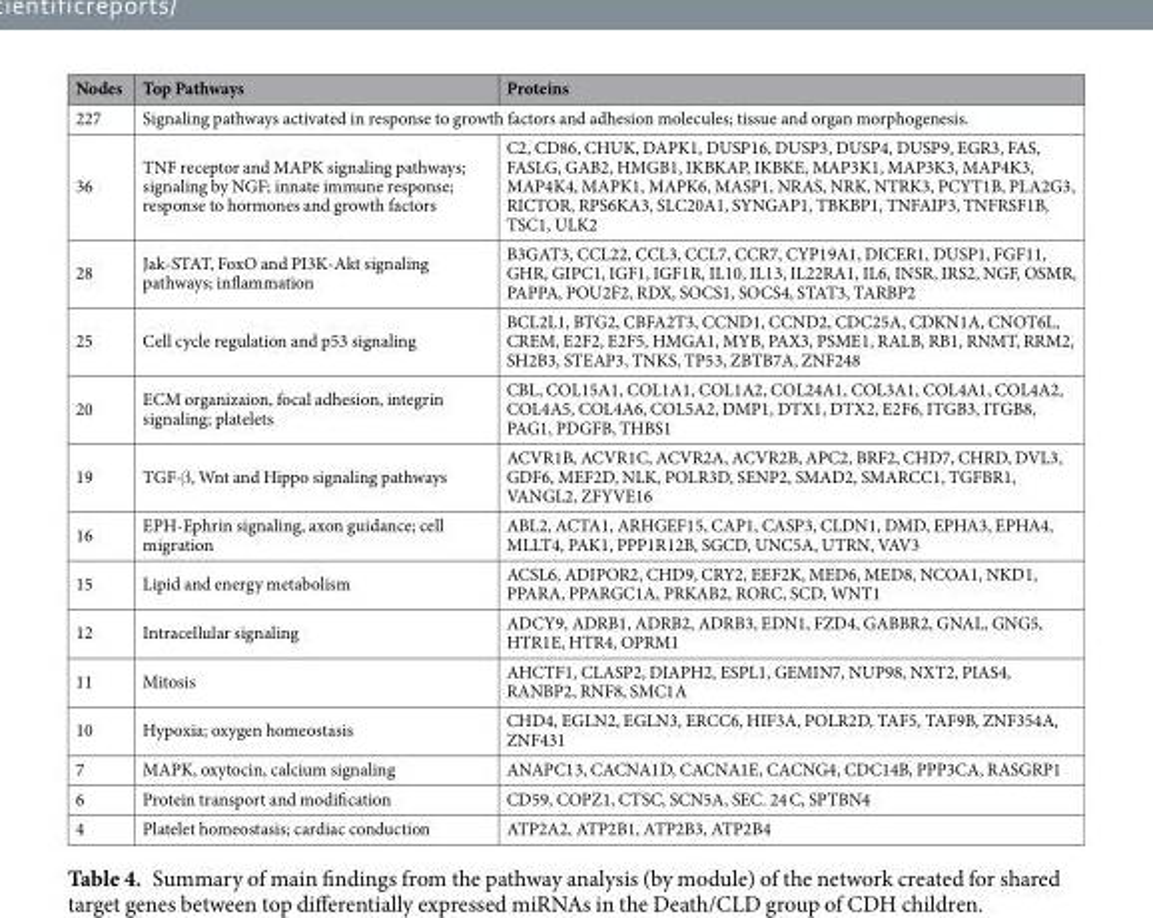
<table><thead><tr><td>Nodes</td><td>Top Pathways</td><td>Proteins</td></tr></thead><tbody><tr><td>227</td><td colspan="2">Signaling pathways activated in response to growth factors and adhesion molecules; tissue and organ morphogenesis.</td></tr><tr><td>36</td><td>TNF receptor and MAPK signaling pathways; signaling by NGF; innate immune response; response to hormones and growth factors</td><td>C2, CD86, CHUK, DAPK1, DUSP16, DUSP3, DUSP4, DUSP9, EGR3, FAS, FASLG, GAB2, HMGB1, IKBKAP, IKBKE, MAP3K1, MAP3K3, MAP4K3, MAP4K4, MAPK1, MAPK6, MASP1, NRAS, NRK, NTRK3, PCYT1B, PLA2G3, RICTOR, RPS6KA3, SLC20A1, SYNGAP1, TBKBP1, TNFAIP3, TNFRSF1B, TSC1, ULK2</td></tr><tr><td>28</td><td>Jak-STAT, FoxO and PI3K-Akt signaling pathways; inflammation</td><td>B3GAT3, CCL22, CCL3, CCL7, CCR7, CYP19A1, DICER1, DUSP1, FGF11, GHR, GIPC1, IGF1, IGF1R, IL10, IL13, IL22RA1, IL6, INSR, IRS2, NGF, OSMR, PAPPA, POU2F2, RDX, SOCS1, SOCS4, STAT3, TARBP2</td></tr><tr><td>25</td><td>Cell cycle regulation and p53 signaling</td><td>BCL2L1, BTG2, CBFA2T3, CCND1, CCND2, CDC25A, CDKN1A, CNOT6L, CREM, E2F2, E2F5, HMGA1, MYB, PAX3, PSME1, RALB, RB1, RNMT, RRM2, SH2B3, STEAP3, TNKS, TP53, ZBTB7A, ZNF248</td></tr><tr><td>20</td><td>ECM organizaion, focal adhesion, integrin signaling; platelets</td><td>CBL, COL15A1, COL1A1, COL1A2, COL24A1, COL3A1, COL4A1, COL4A2, COL4A5, COL4A6, COL5A2, DMP1, DTX1, DTX2, E2F6, ITGB3, ITGB8, PAG1, PDGFB, THBS1</td></tr><tr><td>19</td><td>TGF-β, Wnt and Hippo signaling pathways</td><td>ACVR1B, ACVR1C, ACVR2A, ACVR2B, APC2, BRF2, CHD7, CHRD, DVL3, GDF6, MEF2D, NLK, POLR3D, SENP2, SMAD2, SMARCC1, TGFBR1, VANGL2, ZFYVE16</td></tr><tr><td>16</td><td>EPH-Ephrin signaling, axon guidance; cell migration</td><td>ABL2, ACTA1, ARHGEF15, CAP1, CASP3, CLDN1, DMD, EPHA3, EPHA4, MLLT4, PAK1, PPP1R12B, SGCD, UNC5A, UTRN, VAV3</td></tr><tr><td>15</td><td>Lipid and energy metabolism</td><td>ACSL6, ADIPOR2, CHD9, CRY2, EEF2K, MED6, MED8, NCOA1, NKD1, PPARA, PPARGC1A, PRKAB2, RORC, SCD, WNT1</td></tr><tr><td>12</td><td>Intracellular signaling</td><td>ADCY9, ADRB1, ADRB2, ADRB3, EDN1, FZD4, GABBR2, GNAL, GNG5, HTR1E, HTR4, OPRM1</td></tr><tr><td>11</td><td>Mitosis</td><td>AHCTF1, CLASP2, DIAPH2, ESPL1, GEMIN7, NUP98, NXT2, PIAS4, RANBP2, RNF8, SMC1A</td></tr><tr><td>10</td><td>Hypoxia; oxygen homeostasis</td><td>CHD4, EGLN2, EGLN3, ERCC6, HIF3A, POLR2D, TAF5, TAF9B, ZNF354A, ZNF431</td></tr><tr><td>7</td><td>MAPK, oxytocin, calcium signaling</td><td>ANAPC13, CACNA1D, CACNA1E, CACNG4, CDC14B, PPP3CA, RASGRP1</td></tr><tr><td>6</td><td>Protein transport and modification</td><td>CD59, COPZ1, CTSC, SCN5A, SEC. 24 C, SPTBN4</td></tr><tr><td>4</td><td>Platelet homeostasis; cardiac conduction</td><td>ATP2A2, ATP2B1, ATP2B3, ATP2B4</td></tr></tbody></table>